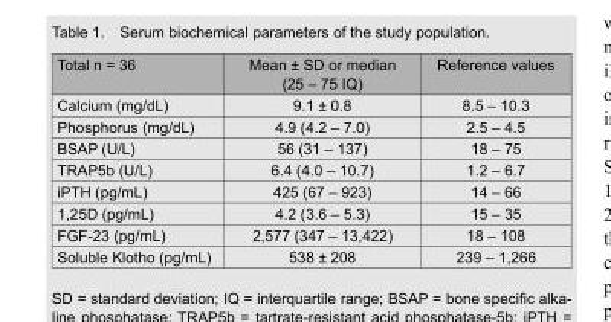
<table><thead><tr><td>Total n = 36</td><td>Mean ± SD or median (25 – 75 IQ)</td><td>Reference values</td></tr></thead><tbody><tr><td>Calcium (mg/dL)</td><td>9.1 ± 0.8</td><td>8.5 – 10.3</td></tr><tr><td>Phosphorus (mg/dL)</td><td>4.9 (4.2 – 7.0)</td><td>2.5 – 4.5</td></tr><tr><td>BSAP (U/L)</td><td>56 (31 – 137)</td><td>18 – 75</td></tr><tr><td>TRAP5b (U/L)</td><td>6.4 (4.0 – 10.7)</td><td>1.2 – 6.7</td></tr><tr><td>iPTH (pg/mL)</td><td>425 (67 – 923)</td><td>14 – 66</td></tr><tr><td>1,25D (pg/mL)</td><td>4.2 (3.6 – 5.3)</td><td>15 – 35</td></tr><tr><td>FGF-23 (pg/mL)</td><td>2,577 (347 – 13,422)</td><td>18 – 108</td></tr><tr><td>Soluble Klotho (pg/mL)</td><td>538 ± 208</td><td>239 – 1,266</td></tr></tbody></table>